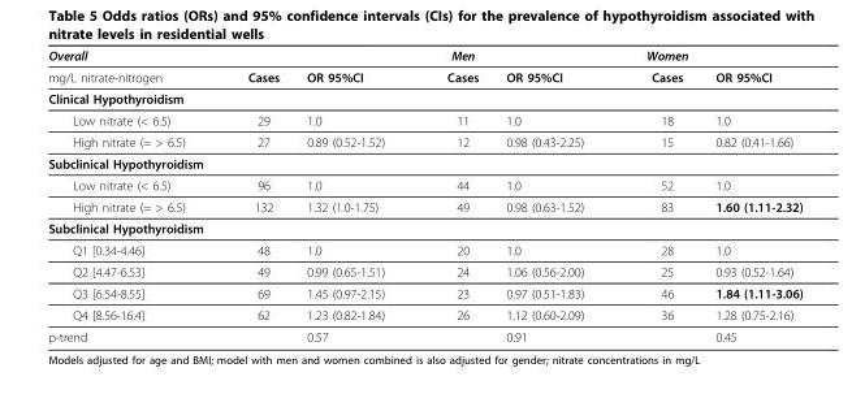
<table><thead><tr><td>Overall</td><td></td><td></td><td>Men</td><td></td><td>Women</td><td></td></tr></thead><tbody><tr><td>mg/L nitrate-nitrogen</td><td>Cases</td><td>OR 95%CI</td><td>Cases</td><td>OR 95%CI</td><td>Cases</td><td>OR 95%CI</td></tr><tr><td colspan="7">Clinical Hypothyroidism</td></tr><tr><td>Low nitrate (&lt; 6.5)</td><td>29</td><td>1.0</td><td>11</td><td>1.0</td><td>18</td><td>1.0</td></tr><tr><td>High nitrate (= &gt; 6.5)</td><td>27</td><td>0.89 (0.52-1.52)</td><td>12</td><td>0.98 (0.43-2.25)</td><td>15</td><td>0.82 (0.41-1.66)</td></tr><tr><td colspan="7">Subclinical Hypothyroidism</td></tr><tr><td>Low nitrate (&lt; 6.5)</td><td>96</td><td>1.0</td><td>44</td><td>1.0</td><td>52</td><td>1.0</td></tr><tr><td>High nitrate (= &gt; 6.5)</td><td>132</td><td>1.32 (1.0-1.75)</td><td>49</td><td>0.98 (0.63-1.52)</td><td>83</td><td>1.60 (1.11-2.32)</td></tr><tr><td colspan="7">Subclinical Hypothyroidism</td></tr><tr><td>Q1 [0.34-4.46]</td><td>48</td><td>1.0</td><td>20</td><td>1.0</td><td>28</td><td>1.0</td></tr><tr><td>Q2 [4.47-6.53]</td><td>49</td><td>0.99 (0.65-1.51)</td><td>24</td><td>1.06 (0.56-2.00)</td><td>25</td><td>0.93 (0.52-1.64)</td></tr><tr><td>Q3 [6.54-8.55]</td><td>69</td><td>1.45 (0.97-2.15)</td><td>23</td><td>0.97 (0.51-1.83)</td><td>46</td><td>1.84 (1.11-3.06)</td></tr><tr><td>Q4 [8.56-16.4]</td><td>62</td><td>1.23 (0.82-1.84)</td><td>26</td><td>1.12 (0.60-2.09)</td><td>36</td><td>1.28 (0.75-2.16)</td></tr><tr><td>p-trend</td><td></td><td>0.57</td><td></td><td>0.91</td><td></td><td>0.45</td></tr></tbody></table>